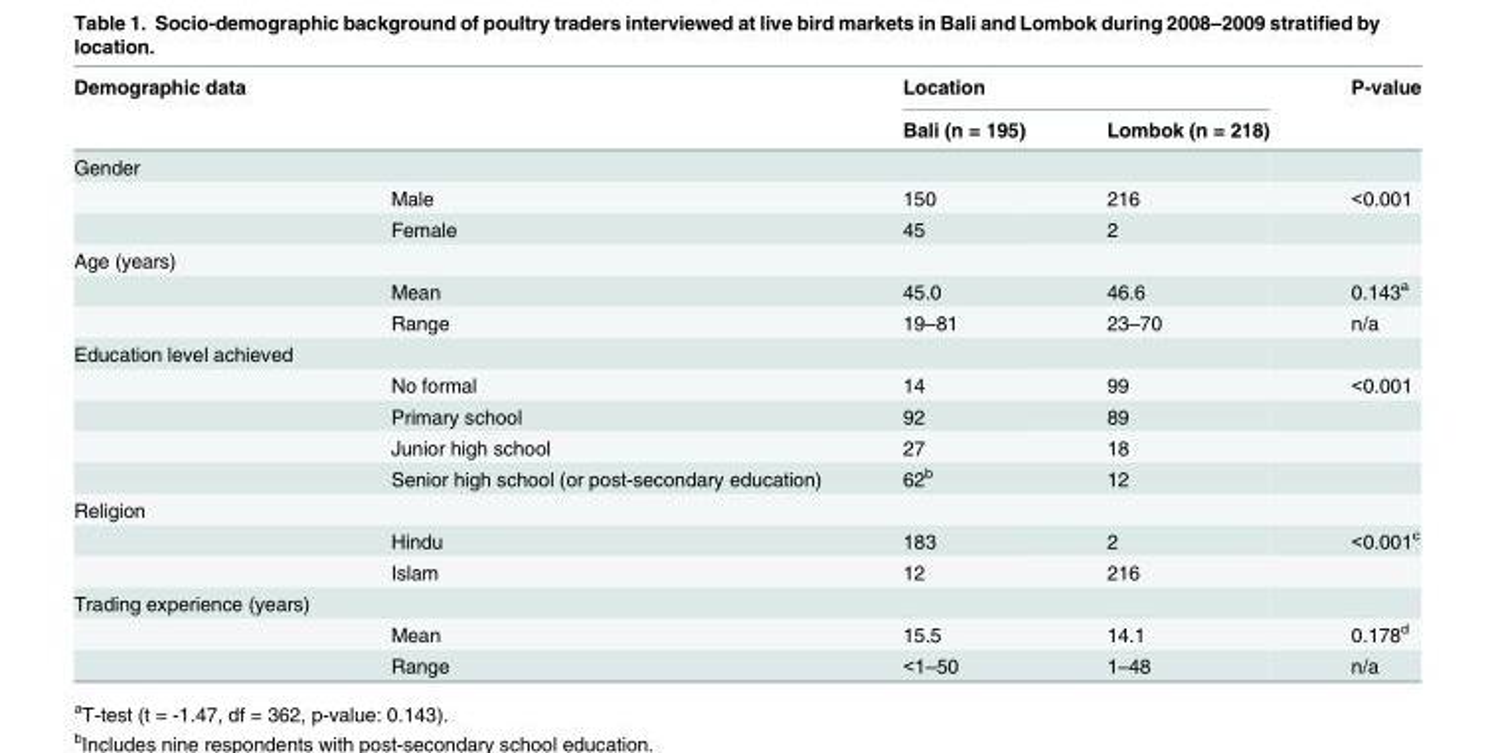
<table><thead><tr><td colspan="2">Demographic data</td><td colspan="2">Location</td><td rowspan="2">P-value</td></tr><tr><td></td><td></td><td>Bali (n = 195)</td><td>Lombok (n = 218)</td></tr></thead><tbody><tr><td colspan="5">Gender</td></tr><tr><td></td><td>Male</td><td>150</td><td>216</td><td>&lt;0.001</td></tr><tr><td></td><td>Female</td><td>45</td><td>2</td><td></td></tr><tr><td colspan="5">Age (years)</td></tr><tr><td></td><td>Mean</td><td>45.0</td><td>46.6</td><td>0.143<sup>a</sup></td></tr><tr><td></td><td>Range</td><td>19–81</td><td>23–70</td><td>n/a</td></tr><tr><td colspan="5">Education level achieved</td></tr><tr><td></td><td>No formal</td><td>14</td><td>99</td><td>&lt;0.001</td></tr><tr><td></td><td>Primary school</td><td>92</td><td>89</td><td></td></tr><tr><td></td><td>Junior high school</td><td>27</td><td>18</td><td></td></tr><tr><td></td><td>Senior high school (or post-secondary education)</td><td>62<sup>b</sup></td><td>12</td><td></td></tr><tr><td colspan="5">Religion</td></tr><tr><td></td><td>Hindu</td><td>183</td><td>2</td><td>&lt;0.001<sup>c</sup></td></tr><tr><td></td><td>Islam</td><td>12</td><td>216</td><td></td></tr><tr><td colspan="5">Trading experience (years)</td></tr><tr><td></td><td>Mean</td><td>15.5</td><td>14.1</td><td>0.178<sup>d</sup></td></tr><tr><td></td><td>Range</td><td>&lt;1–50</td><td>1–48</td><td>n/a</td></tr></tbody></table>